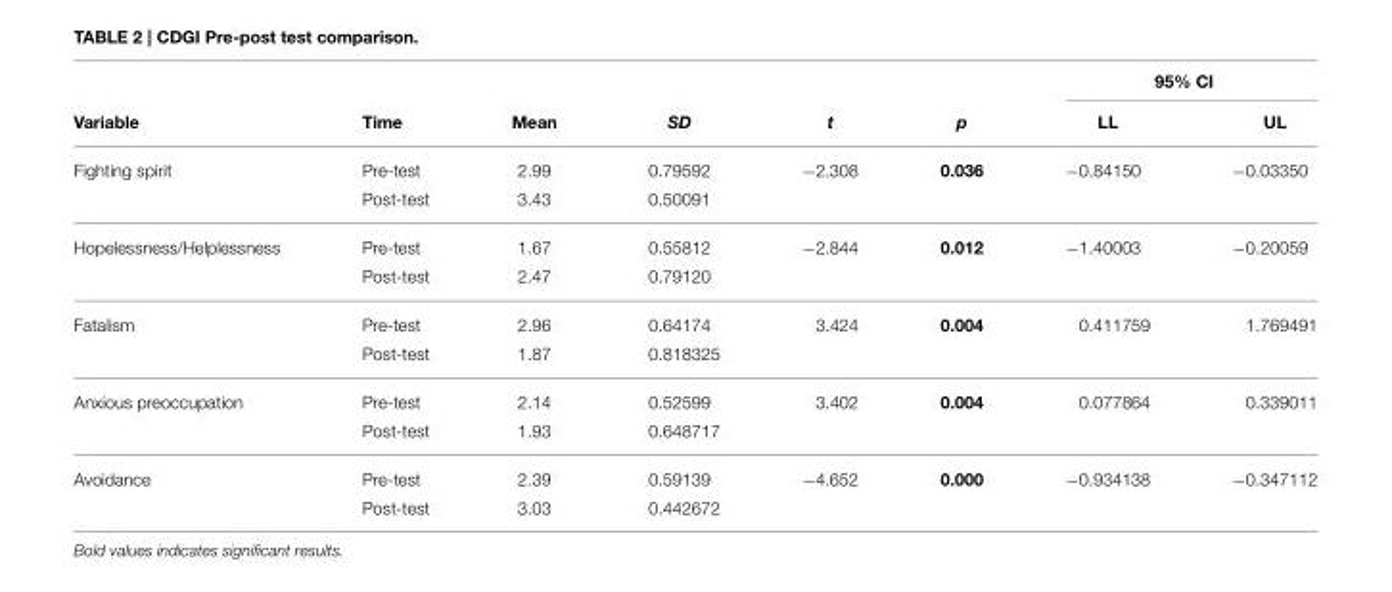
<table><thead><tr><td rowspan="2">Variable</td><td rowspan="2">Time</td><td rowspan="2">Mean</td><td rowspan="2">SD</td><td rowspan="2">t</td><td rowspan="2">p</td><td colspan="2">95% CI</td></tr><tr><td>LL</td><td>UL</td></tr></thead><tbody><tr><td rowspan="2">Fighting spirit</td><td>Pre-test</td><td>2.99</td><td>0.79592</td><td>−2.308</td><td>0.036</td><td>−0.84150</td><td>−0.03350</td></tr><tr><td>Post-test</td><td>3.43</td><td>0.50091</td><td></td><td></td><td></td><td></td></tr><tr><td rowspan="2">Hopelessness/Helplessness</td><td>Pre-test</td><td>1.67</td><td>0.55812</td><td>−2.844</td><td>0.012</td><td>−1.40003</td><td>−0.20059</td></tr><tr><td>Post-test</td><td>2.47</td><td>0.79120</td><td></td><td></td><td></td><td></td></tr><tr><td rowspan="2">Fatalism</td><td>Pre-test</td><td>2.96</td><td>0.64174</td><td>3.424</td><td>0.004</td><td>0.411759</td><td>1.769491</td></tr><tr><td>Post-test</td><td>1.87</td><td>0.818325</td><td></td><td></td><td></td><td></td></tr><tr><td rowspan="2">Anxious preoccupation</td><td>Pre-test</td><td>2.14</td><td>0.52599</td><td>3.402</td><td>0.004</td><td>0.077864</td><td>0.339011</td></tr><tr><td>Post-test</td><td>1.93</td><td>0.648717</td><td></td><td></td><td></td><td></td></tr><tr><td rowspan="2">Avoidance</td><td>Pre-test</td><td>2.39</td><td>0.59139</td><td>−4.652</td><td>0.000</td><td>−0.934138</td><td>−0.347112</td></tr><tr><td>Post-test</td><td>3.03</td><td>0.442672</td><td></td><td></td><td></td><td></td></tr></tbody></table>